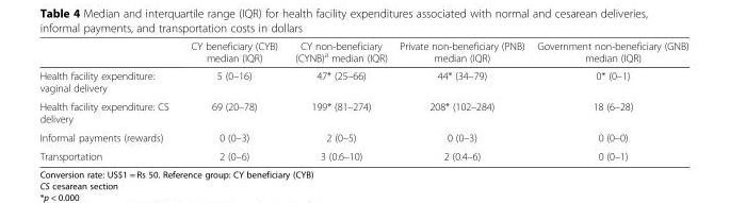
<table><thead><tr><td></td><td>CY beneficiary (CYB) median (IQR)</td><td>CY non-beneficiary (CYNB)<sup>a</sup> median (IQR)</td><td>Private non-beneficiary (PNB) median (IQR)</td><td>Government non-beneficiary (GNB) median (IQR)</td></tr></thead><tbody><tr><td>Health facility expenditure: vaginal delivery</td><td>5 (0–16)</td><td>47* (25–66)</td><td>44* (34–79)</td><td>0* (0–1)</td></tr><tr><td>Health facility expenditure: CS delivery</td><td>69 (20–78)</td><td>199* (81–274)</td><td>208* (102–284)</td><td>18 (6–28)</td></tr><tr><td>Informal payments (rewards)</td><td>0 (0–3)</td><td>2 (0–5)</td><td>0 (0–3)</td><td>0 (0–0)</td></tr><tr><td>Transportation</td><td>2 (0–6)</td><td>3 (0.6–10)</td><td>2 (0.4–6)</td><td>0 (0–1)</td></tr></tbody></table>